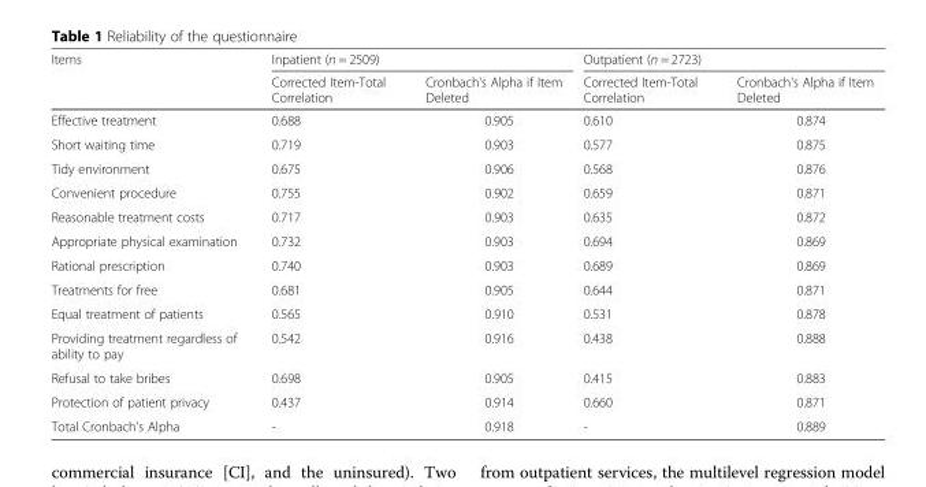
<table><thead><tr><td rowspan="2">Items</td><td colspan="2">Inpatient (n = 2509)</td><td colspan="2">Outpatient (n = 2723)</td></tr><tr><td>Corrected Item-Total Correlation</td><td>Cronbach&#x27;s Alpha if Item Deleted</td><td>Corrected Item-Total Correlation</td><td>Cronbach&#x27;s Alpha if Item Deleted</td></tr></thead><tbody><tr><td>Effective treatment</td><td>0.688</td><td>0.905</td><td>0.610</td><td>0.874</td></tr><tr><td>Short waiting time</td><td>0.719</td><td>0.903</td><td>0.577</td><td>0.875</td></tr><tr><td>Tidy environment</td><td>0.675</td><td>0.906</td><td>0.568</td><td>0.876</td></tr><tr><td>Convenient procedure</td><td>0.755</td><td>0.902</td><td>0.659</td><td>0.871</td></tr><tr><td>Reasonable treatment costs</td><td>0.717</td><td>0.903</td><td>0.635</td><td>0.872</td></tr><tr><td>Appropriate physical examination</td><td>0.732</td><td>0.903</td><td>0.694</td><td>0.869</td></tr><tr><td>Rational prescription</td><td>0.740</td><td>0.903</td><td>0.689</td><td>0.869</td></tr><tr><td>Treatments for free</td><td>0.681</td><td>0.905</td><td>0.644</td><td>0.871</td></tr><tr><td>Equal treatment of patients</td><td>0.565</td><td>0.910</td><td>0.531</td><td>0.878</td></tr><tr><td>Providing treatment regardless of ability to pay</td><td>0.542</td><td>0.916</td><td>0.438</td><td>0.888</td></tr><tr><td>Refusal to take bribes</td><td>0.698</td><td>0.905</td><td>0.415</td><td>0.883</td></tr><tr><td>Protection of patient privacy</td><td>0.437</td><td>0.914</td><td>0.660</td><td>0.871</td></tr><tr><td>Total Cronbach&#x27;s Alpha</td><td>-</td><td>0.918</td><td>-</td><td>0.889</td></tr></tbody></table>